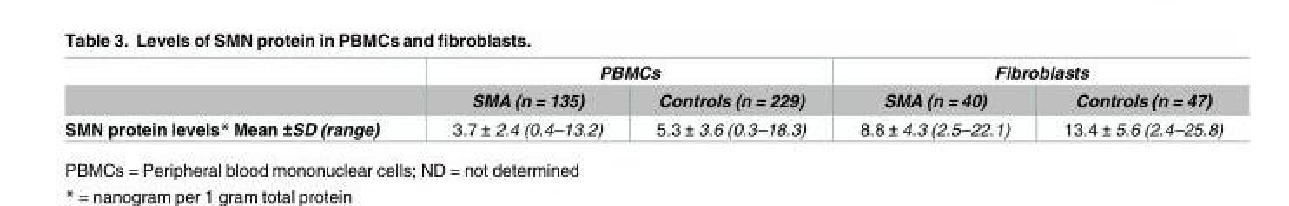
<table><thead><tr><td rowspan="2"></td><td colspan="2">PBMCs</td><td colspan="2">Fibroblasts</td></tr><tr><td>SMA (n = 135)</td><td>Controls (n = 229)</td><td>SMA (n = 40)</td><td>Controls (n = 47)</td></tr></thead><tbody><tr><td>SMN protein levels* Mean ±SD (range)</td><td>3.7 ± 2.4 (0.4–13.2)</td><td>5.3 ± 3.6 (0.3–18.3)</td><td>8.8 ± 4.3 (2.5–22.1)</td><td>13.4 ± 5.6 (2.4–25.8)</td></tr></tbody></table>